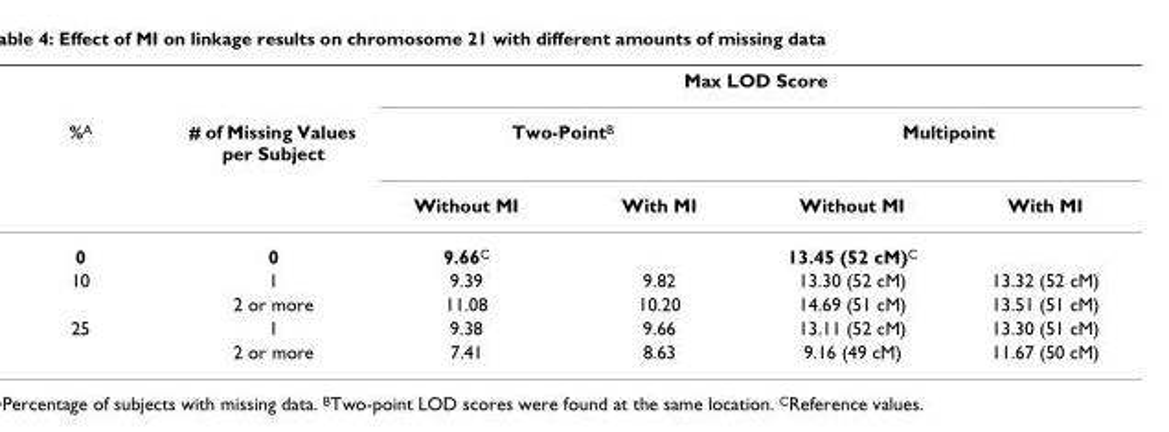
<table><thead><tr><td rowspan="3">%A</td><td rowspan="3"># of Missing Values per Subject</td><td colspan="4">Max LOD Score</td></tr><tr><td colspan="2">Two-PointB</td><td colspan="2">Multipoint</td></tr><tr><td>Without MI</td><td>With MI</td><td>Without MI</td><td>With MI</td></tr></thead><tbody><tr><td>0</td><td>0</td><td>9.66C</td><td></td><td>13.45 (52 cM)C</td><td></td></tr><tr><td rowspan="2">10</td><td>1</td><td>9.39</td><td>9.82</td><td>13.30 (52 cM)</td><td>13.32 (52 cM)</td></tr><tr><td>2 or more</td><td>11.08</td><td>10.20</td><td>14.69 (51 cM)</td><td>13.51 (51 cM)</td></tr><tr><td rowspan="2">25</td><td>1</td><td>9.38</td><td>9.66</td><td>13.11 (52 cM)</td><td>13.30 (51 cM)</td></tr><tr><td>2 or more</td><td>7.41</td><td>8.63</td><td>9.16 (49 cM)</td><td>11.67 (50 cM)</td></tr></tbody></table>